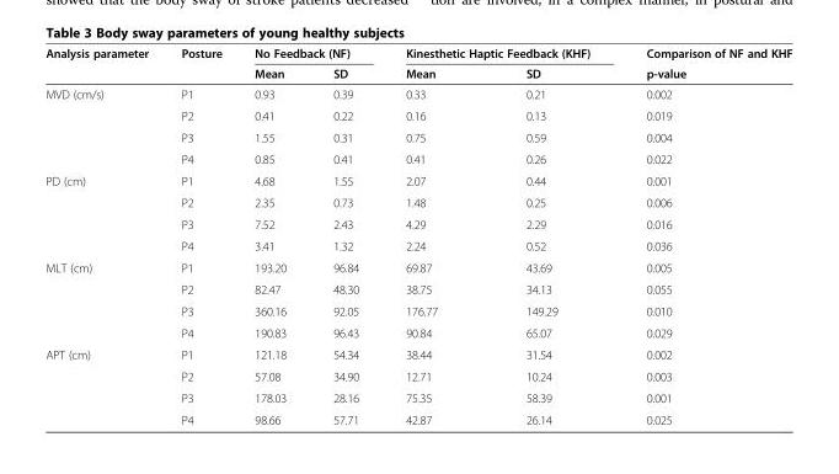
<table><thead><tr><td rowspan="2">Analysis parameter</td><td rowspan="2">Posture</td><td colspan="2">No Feedback (NF)</td><td colspan="2">Kinesthetic Haptic Feedback (KHF)</td><td rowspan="2">Comparison of NF and KHF p-value</td></tr><tr><td>Mean</td><td>SD</td><td>Mean</td><td>SD</td></tr></thead><tbody><tr><td rowspan="4">MVD (cm/s)</td><td>P1</td><td>0.93</td><td>0.39</td><td>0.33</td><td>0.21</td><td>0.002</td></tr><tr><td>P2</td><td>0.41</td><td>0.22</td><td>0.16</td><td>0.13</td><td>0.019</td></tr><tr><td>P3</td><td>1.55</td><td>0.31</td><td>0.75</td><td>0.59</td><td>0.004</td></tr><tr><td>P4</td><td>0.85</td><td>0.41</td><td>0.41</td><td>0.26</td><td>0.022</td></tr><tr><td rowspan="4">PD (cm)</td><td>P1</td><td>4.68</td><td>1.55</td><td>2.07</td><td>0.44</td><td>0.001</td></tr><tr><td>P2</td><td>2.35</td><td>0.73</td><td>1.48</td><td>0.25</td><td>0.006</td></tr><tr><td>P3</td><td>7.52</td><td>2.43</td><td>4.29</td><td>2.29</td><td>0.016</td></tr><tr><td>P4</td><td>3.41</td><td>1.32</td><td>2.24</td><td>0.52</td><td>0.036</td></tr><tr><td rowspan="4">MLT (cm)</td><td>P1</td><td>193.20</td><td>96.84</td><td>69.87</td><td>43.69</td><td>0.005</td></tr><tr><td>P2</td><td>82.47</td><td>48.30</td><td>38.75</td><td>34.13</td><td>0.055</td></tr><tr><td>P3</td><td>360.16</td><td>92.05</td><td>176.77</td><td>149.29</td><td>0.010</td></tr><tr><td>P4</td><td>190.83</td><td>96.43</td><td>90.84</td><td>65.07</td><td>0.029</td></tr><tr><td rowspan="4">APT (cm)</td><td>P1</td><td>121.18</td><td>54.34</td><td>38.44</td><td>31.54</td><td>0.002</td></tr><tr><td>P2</td><td>57.08</td><td>34.90</td><td>12.71</td><td>10.24</td><td>0.003</td></tr><tr><td>P3</td><td>178.03</td><td>28.16</td><td>75.35</td><td>58.39</td><td>0.001</td></tr><tr><td>P4</td><td>98.66</td><td>57.71</td><td>42.87</td><td>26.14</td><td>0.025</td></tr></tbody></table>